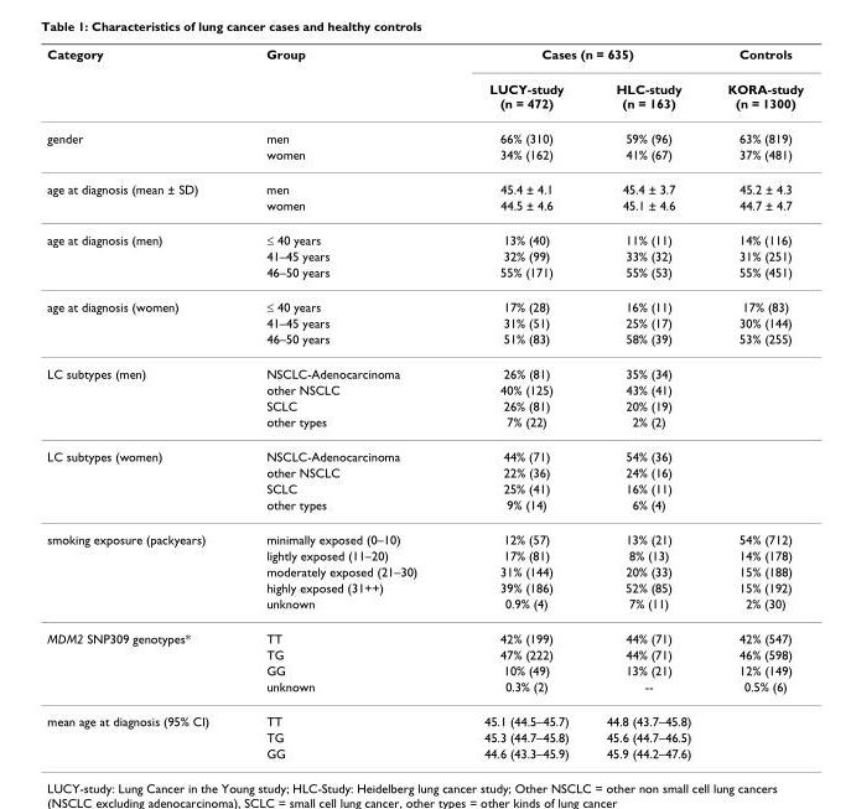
<table><thead><tr><td rowspan="2">Category</td><td rowspan="2">Group</td><td colspan="2">Cases (n = 635)</td><td rowspan="2">Controls KORA-study (n = 1300)</td></tr><tr><td>LUCY-study (n = 472)</td><td>HLC-study (n = 163)</td></tr></thead><tbody><tr><td rowspan="2">gender</td><td>men</td><td>66% (310)</td><td>59% (96)</td><td>63% (819)</td></tr><tr><td>women</td><td>34% (162)</td><td>41% (67)</td><td>37% (481)</td></tr><tr><td rowspan="2">age at diagnosis (mean ± SD)</td><td>men</td><td>45.4 ± 4.1</td><td>45.4 ± 3.7</td><td>45.2 ± 4.3</td></tr><tr><td>women</td><td>44.5 ± 4.6</td><td>45.1 ± 4.6</td><td>44.7 ± 4.7</td></tr><tr><td rowspan="3">age at diagnosis (men)</td><td>≤ 40 years</td><td>13% (40)</td><td>11% (11)</td><td>14% (116)</td></tr><tr><td>41–45 years</td><td>32% (99)</td><td>33% (32)</td><td>31% (251)</td></tr><tr><td>46–50 years</td><td>55% (171)</td><td>55% (53)</td><td>55% (451)</td></tr><tr><td rowspan="3">age at diagnosis (women)</td><td>≤ 40 years</td><td>17% (28)</td><td>16% (11)</td><td>17% (83)</td></tr><tr><td>41–45 years</td><td>31% (51)</td><td>25% (17)</td><td>30% (144)</td></tr><tr><td>46–50 years</td><td>51% (83)</td><td>58% (39)</td><td>53% (255)</td></tr><tr><td rowspan="4">LC subtypes (men)</td><td>NSCLC-Adenocarcinoma</td><td>26% (81)</td><td>35% (34)</td><td></td></tr><tr><td>other NSCLC</td><td>40% (125)</td><td>43% (41)</td><td></td></tr><tr><td>SCLC</td><td>26% (81)</td><td>20% (19)</td><td></td></tr><tr><td>other types</td><td>7% (22)</td><td>2% (2)</td><td></td></tr><tr><td rowspan="4">LC subtypes (women)</td><td>NSCLC-Adenocarcinoma</td><td>44% (71)</td><td>54% (36)</td><td></td></tr><tr><td>other NSCLC</td><td>22% (36)</td><td>24% (16)</td><td></td></tr><tr><td>SCLC</td><td>25% (41)</td><td>16% (11)</td><td></td></tr><tr><td>other types</td><td>9% (14)</td><td>6% (4)</td><td></td></tr><tr><td rowspan="5">smoking exposure (packyears)</td><td>minimally exposed (0–10)</td><td>12% (57)</td><td>13% (21)</td><td>54% (712)</td></tr><tr><td>lightly exposed (11–20)</td><td>17% (81)</td><td>8% (13)</td><td>14% (178)</td></tr><tr><td>moderately exposed (21–30)</td><td>31% (144)</td><td>20% (33)</td><td>15% (188)</td></tr><tr><td>highly exposed (31++)</td><td>39% (186)</td><td>52% (85)</td><td>15% (192)</td></tr><tr><td>unknown</td><td>0.9% (4)</td><td>7% (11)</td><td>2% (30)</td></tr><tr><td rowspan="4">MDM2 SNP309 genotypes*</td><td>TT</td><td>42% (199)</td><td>44% (71)</td><td>42% (547)</td></tr><tr><td>TG</td><td>47% (222)</td><td>44% (71)</td><td>46% (598)</td></tr><tr><td>GG</td><td>10% (49)</td><td>13% (21)</td><td>12% (149)</td></tr><tr><td>unknown</td><td>0.3% (2)</td><td>--</td><td>0.5% (6)</td></tr><tr><td rowspan="3">mean age at diagnosis (95% CI)</td><td>TT</td><td>45.1 (44.5–45.7)</td><td>44.8 (43.7–45.8)</td><td></td></tr><tr><td>TG</td><td>45.3 (44.7–45.8)</td><td>45.6 (44.7–46.5)</td><td></td></tr><tr><td>GG</td><td>44.6 (43.3–45.9)</td><td>45.9 (44.2–47.6)</td><td></td></tr></tbody></table>